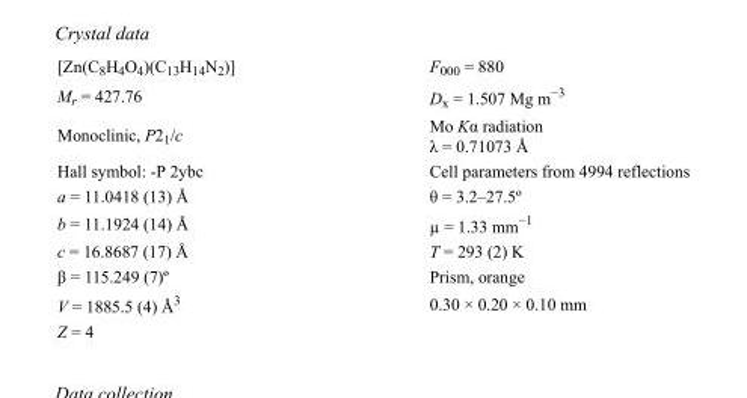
<table><tbody><tr><td>[Zn(C<sub>8</sub>H<sub>4</sub>O<sub>4</sub>)(C<sub>13</sub>H<sub>14</sub>N<sub>2</sub>)]</td><td>F<sub>000</sub> = 880</td></tr><tr><td>M<sub>r</sub> = 427.76</td><td>D<sub>x</sub> = 1.507 Mg m<sup>−3</sup></td></tr><tr><td>Monoclinic, P2<sub>1</sub>/c</td><td>Mo Kα radiation λ = 0.71073 Å</td></tr><tr><td>Hall symbol: -P 2ybc</td><td>Cell parameters from 4994 reflections</td></tr><tr><td>a = 11.0418 (13) Å</td><td>θ = 3.2–27.5º</td></tr><tr><td>b = 11.1924 (14) Å</td><td>µ = 1.33 mm<sup>−1</sup></td></tr><tr><td>c = 16.8687 (17) Å</td><td>T = 293 (2) K</td></tr><tr><td>β = 115.249 (7)º</td><td>Prism, orange</td></tr><tr><td>V = 1885.5 (4) Å<sup>3</sup></td><td>0.30 × 0.20 × 0.10 mm</td></tr><tr><td>Z = 4</td><td></td></tr></tbody></table>